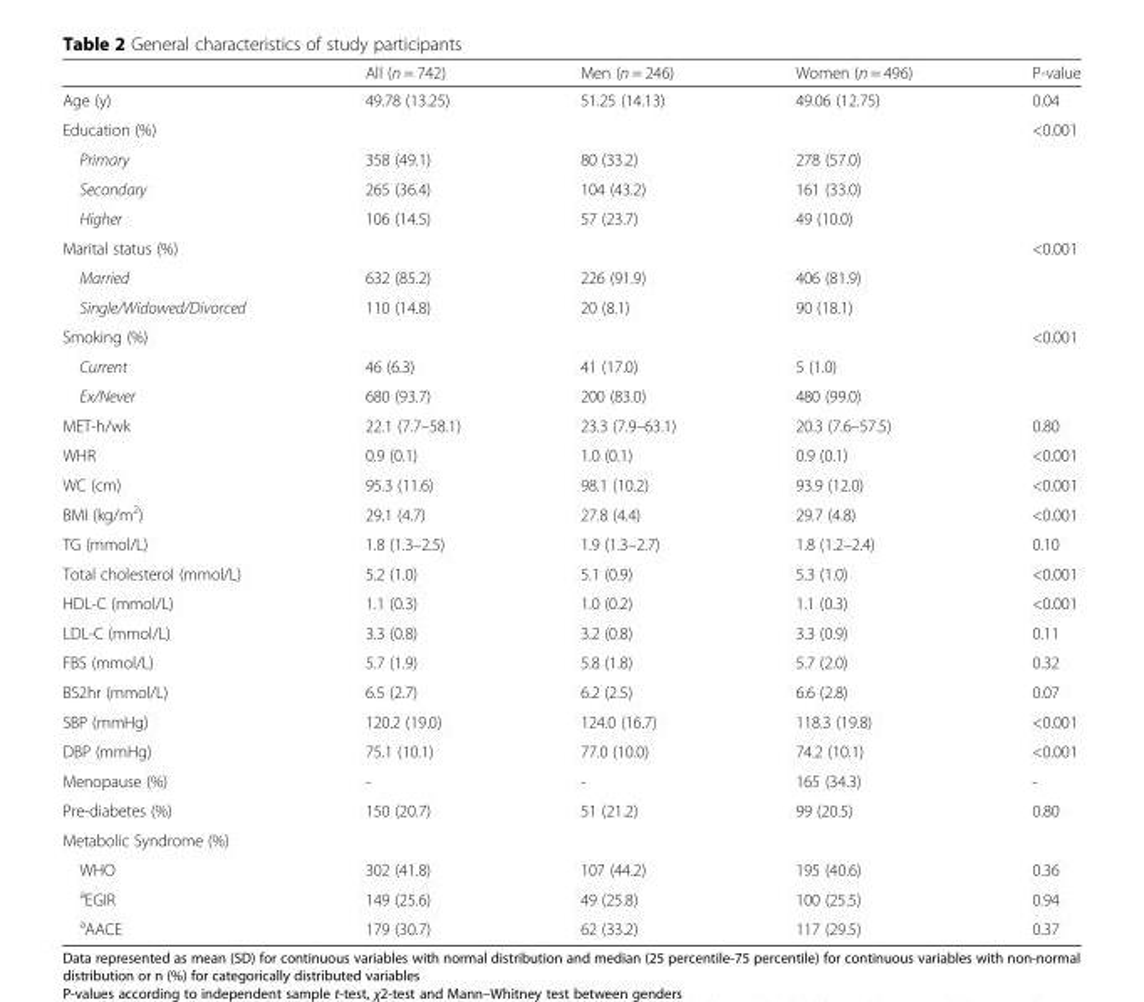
<table><thead><tr><td></td><td>All (n = 742)</td><td>Men (n = 246)</td><td>Women (n = 496)</td><td>P-value</td></tr></thead><tbody><tr><td>Age (y)</td><td>49.78 (13.25)</td><td>51.25 (14.13)</td><td>49.06 (12.75)</td><td>0.04</td></tr><tr><td>Education (%)</td><td></td><td></td><td></td><td>&lt;0.001</td></tr><tr><td>Primary</td><td>358 (49.1)</td><td>80 (33.2)</td><td>278 (57.0)</td><td></td></tr><tr><td>Secondary</td><td>265 (36.4)</td><td>104 (43.2)</td><td>161 (33.0)</td><td></td></tr><tr><td>Higher</td><td>106 (14.5)</td><td>57 (23.7)</td><td>49 (10.0)</td><td></td></tr><tr><td>Marital status (%)</td><td></td><td></td><td></td><td>&lt;0.001</td></tr><tr><td>Married</td><td>632 (85.2)</td><td>226 (91.9)</td><td>406 (81.9)</td><td></td></tr><tr><td>Single/Widowed/Divorced</td><td>110 (14.8)</td><td>20 (8.1)</td><td>90 (18.1)</td><td></td></tr><tr><td>Smoking (%)</td><td></td><td></td><td></td><td>&lt;0.001</td></tr><tr><td>Current</td><td>46 (6.3)</td><td>41 (17.0)</td><td>5 (1.0)</td><td></td></tr><tr><td>Ex/Never</td><td>680 (93.7)</td><td>200 (83.0)</td><td>480 (99.0)</td><td></td></tr><tr><td>MET-h/wk</td><td>22.1 (7.7–58.1)</td><td>23.3 (7.9–63.1)</td><td>20.3 (7.6–57.5)</td><td>0.80</td></tr><tr><td>WHR</td><td>0.9 (0.1)</td><td>1.0 (0.1)</td><td>0.9 (0.1)</td><td>&lt;0.001</td></tr><tr><td>WC (cm)</td><td>95.3 (11.6)</td><td>98.1 (10.2)</td><td>93.9 (12.0)</td><td>&lt;0.001</td></tr><tr><td>BMI (kg/m<sup>2</sup>)</td><td>29.1 (4.7)</td><td>27.8 (4.4)</td><td>29.7 (4.8)</td><td>&lt;0.001</td></tr><tr><td>TG (mmol/L)</td><td>1.8 (1.3–2.5)</td><td>1.9 (1.3–2.7)</td><td>1.8 (1.2–2.4)</td><td>0.10</td></tr><tr><td>Total cholesterol (mmol/L)</td><td>5.2 (1.0)</td><td>5.1 (0.9)</td><td>5.3 (1.0)</td><td>&lt;0.001</td></tr><tr><td>HDL-C (mmol/L)</td><td>1.1 (0.3)</td><td>1.0 (0.2)</td><td>1.1 (0.3)</td><td>&lt;0.001</td></tr><tr><td>LDL-C (mmol/L)</td><td>3.3 (0.8)</td><td>3.2 (0.8)</td><td>3.3 (0.9)</td><td>0.11</td></tr><tr><td>FBS (mmol/L)</td><td>5.7 (1.9)</td><td>5.8 (1.8)</td><td>5.7 (2.0)</td><td>0.32</td></tr><tr><td>BS2hr (mmol/L)</td><td>6.5 (2.7)</td><td>6.2 (2.5)</td><td>6.6 (2.8)</td><td>0.07</td></tr><tr><td>SBP (mmHg)</td><td>120.2 (19.0)</td><td>124.0 (16.7)</td><td>118.3 (19.8)</td><td>&lt;0.001</td></tr><tr><td>DBP (mmHg)</td><td>75.1 (10.1)</td><td>77.0 (10.0)</td><td>74.2 (10.1)</td><td>&lt;0.001</td></tr><tr><td>Menopause (%)</td><td>-</td><td>-</td><td>165 (34.3)</td><td>-</td></tr><tr><td>Pre-diabetes (%)</td><td>150 (20.7)</td><td>51 (21.2)</td><td>99 (20.5)</td><td>0.80</td></tr><tr><td colspan="5">Metabolic Syndrome (%)</td></tr><tr><td>WHO</td><td>302 (41.8)</td><td>107 (44.2)</td><td>195 (40.6)</td><td>0.36</td></tr><tr><td><sup>a</sup>EGIR</td><td>149 (25.6)</td><td>49 (25.8)</td><td>100 (25.5)</td><td>0.94</td></tr><tr><td><sup>a</sup>AACE</td><td>179 (30.7)</td><td>62 (33.2)</td><td>117 (29.5)</td><td>0.37</td></tr></tbody></table>